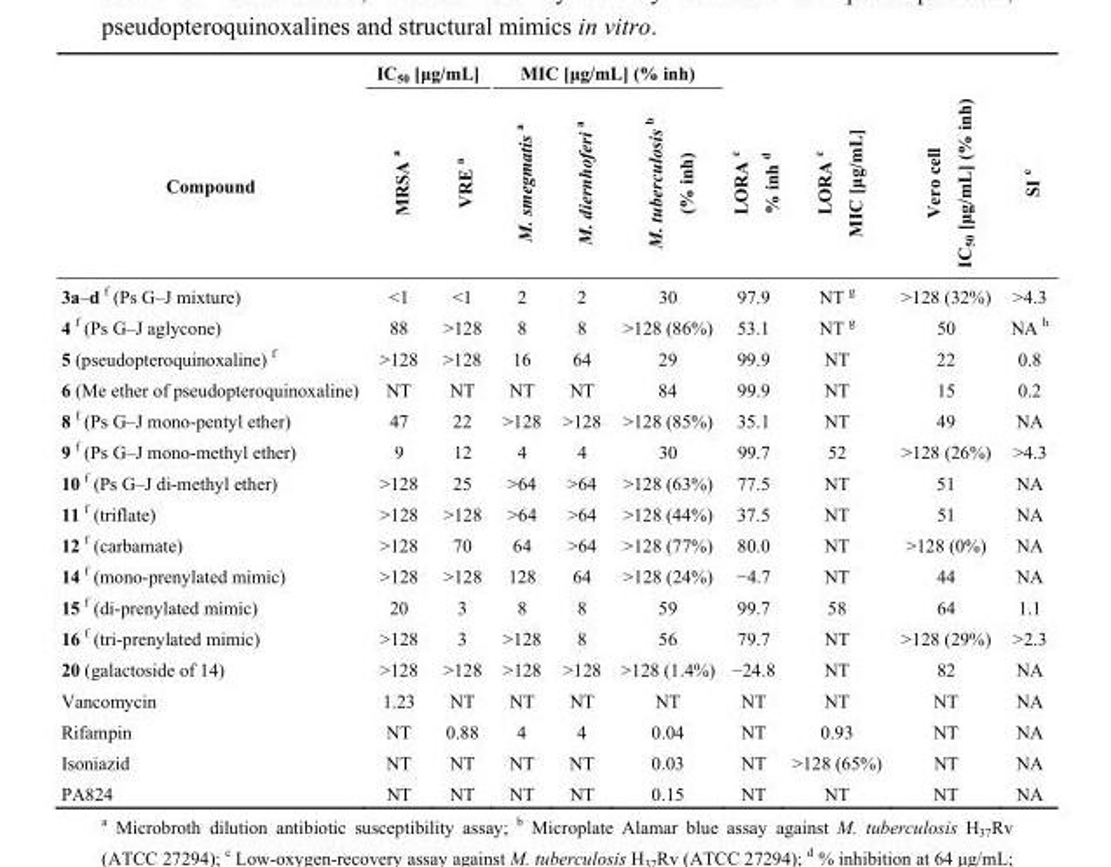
<table><thead><tr><td rowspan="2">Compound</td><td colspan="2">IC<sub>50</sub> [μg/mL]</td><td colspan="3">MIC [μg/mL] (% inh)</td><td rowspan="2">LORA <sup>c</sup> % inh <sup>d</sup></td><td rowspan="2">LORA <sup>c</sup> MIC [μg/mL]</td><td rowspan="2">Vero cell IC<sub>50</sub> [μg/mL] (% inh)</td><td rowspan="2">SI <sup>e</sup></td></tr><tr><td>MRSA <sup>a</sup></td><td>VRE <sup>a</sup></td><td>M. smegmatis <sup>a</sup></td><td>M. diernhoferi <sup>a</sup></td><td>M. tuberculosis <sup>b</sup> (% inh)</td></tr></thead><tbody><tr><td>3a–d <sup>f</sup> (Ps G–J mixture)</td><td>&lt;1</td><td>&lt;1</td><td>2</td><td>2</td><td>30</td><td>97.9</td><td>NT <sup>g</sup></td><td>&gt;128 (32%)</td><td>&gt;4.3</td></tr><tr><td>4 <sup>f</sup> (Ps G–J aglycone)</td><td>88</td><td>&gt;128</td><td>8</td><td>8</td><td>&gt;128 (86%)</td><td>53.1</td><td>NT <sup>g</sup></td><td>50</td><td>NA <sup>h</sup></td></tr><tr><td>5 (pseudopteroquinoxaline) <sup>f</sup></td><td>&gt;128</td><td>&gt;128</td><td>16</td><td>64</td><td>29</td><td>99.9</td><td>NT</td><td>22</td><td>0.8</td></tr><tr><td>6 (Me ether of pseudopteroquinoxaline)</td><td>NT</td><td>NT</td><td>NT</td><td>NT</td><td>84</td><td>99.9</td><td>NT</td><td>15</td><td>0.2</td></tr><tr><td>8 <sup>f</sup> (Ps G–J mono-pentyl ether)</td><td>47</td><td>22</td><td>&gt;128</td><td>&gt;128</td><td>&gt;128 (85%)</td><td>35.1</td><td>NT</td><td>49</td><td>NA</td></tr><tr><td>9 <sup>f</sup> (Ps G–J mono-methyl ether)</td><td>9</td><td>12</td><td>4</td><td>4</td><td>30</td><td>99.7</td><td>52</td><td>&gt;128 (26%)</td><td>&gt;4.3</td></tr><tr><td>10 <sup>f</sup> (Ps G–J di-methyl ether)</td><td>&gt;128</td><td>25</td><td>&gt;64</td><td>&gt;64</td><td>&gt;128 (63%)</td><td>77.5</td><td>NT</td><td>51</td><td>NA</td></tr><tr><td>11 <sup>f</sup> (triflate)</td><td>&gt;128</td><td>&gt;128</td><td>&gt;64</td><td>&gt;64</td><td>&gt;128 (44%)</td><td>37.5</td><td>NT</td><td>51</td><td>NA</td></tr><tr><td>12 <sup>f</sup> (carbamate)</td><td>&gt;128</td><td>70</td><td>64</td><td>&gt;64</td><td>&gt;128 (77%)</td><td>80.0</td><td>NT</td><td>&gt;128 (0%)</td><td>NA</td></tr><tr><td>14 <sup>f</sup> (mono-prenylated mimic)</td><td>&gt;128</td><td>&gt;128</td><td>128</td><td>64</td><td>&gt;128 (24%)</td><td>−4.7</td><td>NT</td><td>44</td><td>NA</td></tr><tr><td>15 <sup>f</sup> (di-prenylated mimic)</td><td>20</td><td>3</td><td>8</td><td>8</td><td>59</td><td>99.7</td><td>58</td><td>64</td><td>1.1</td></tr><tr><td>16 <sup>f</sup> (tri-prenylated mimic)</td><td>&gt;128</td><td>3</td><td>&gt;128</td><td>8</td><td>56</td><td>79.7</td><td>NT</td><td>&gt;128 (29%)</td><td>&gt;2.3</td></tr><tr><td>20 (galactoside of 14)</td><td>&gt;128</td><td>&gt;128</td><td>&gt;128</td><td>&gt;128</td><td>&gt;128 (1.4%)</td><td>−24.8</td><td>NT</td><td>82</td><td>NA</td></tr><tr><td>Vancomycin</td><td>1.23</td><td>NT</td><td>NT</td><td>NT</td><td>NT</td><td>NT</td><td>NT</td><td>NT</td><td>NA</td></tr><tr><td>Rifampin</td><td>NT</td><td>0.88</td><td>4</td><td>4</td><td>0.04</td><td>NT</td><td>0.93</td><td>NT</td><td>NA</td></tr><tr><td>Isoniazid</td><td>NT</td><td>NT</td><td>NT</td><td>NT</td><td>0.03</td><td>NT</td><td>&gt;128 (65%)</td><td>NT</td><td>NA</td></tr><tr><td>PA824</td><td>NT</td><td>NT</td><td>NT</td><td>NT</td><td>0.15</td><td>NT</td><td>NT</td><td>NT</td><td>NA</td></tr></tbody></table>